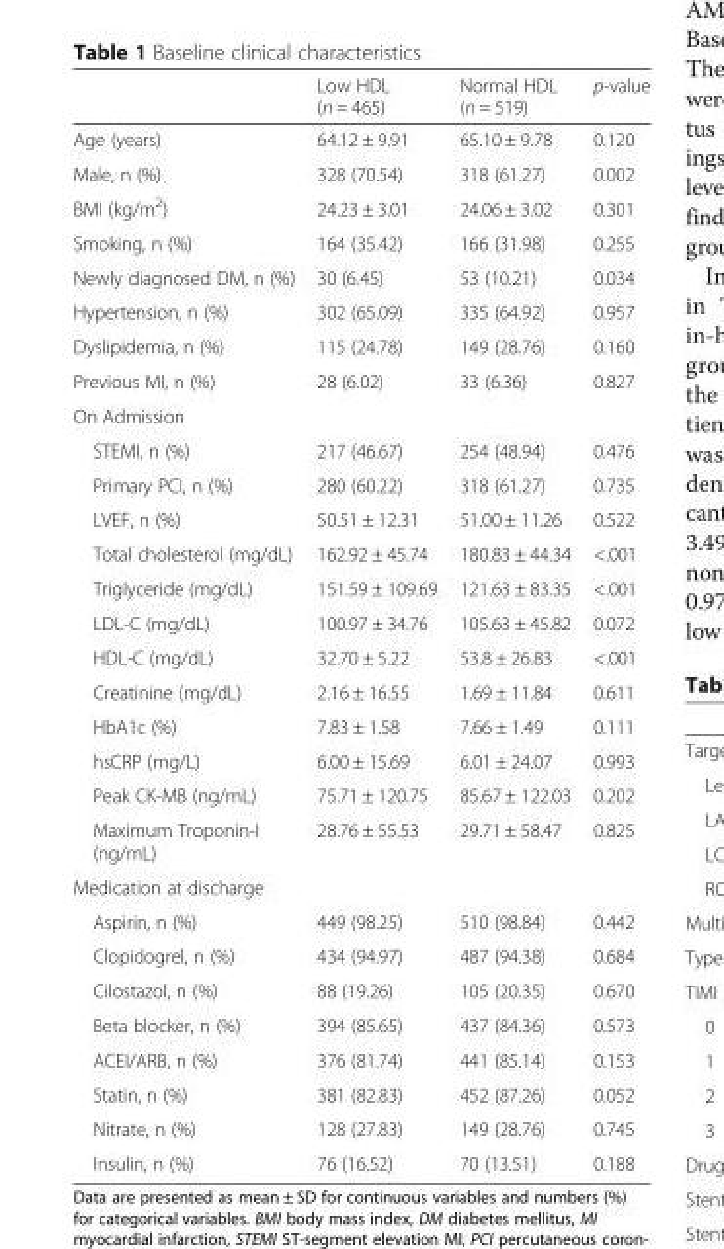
<table><thead><tr><td></td><td>Low HDL (n = 465)</td><td>Normal HDL (n = 519)</td><td>p-value</td></tr></thead><tbody><tr><td>Age (years)</td><td>64.12 ± 9.91</td><td>65.10 ± 9.78</td><td>0.120</td></tr><tr><td>Male, n (%)</td><td>328 (70.54)</td><td>318 (61.27)</td><td>0.002</td></tr><tr><td>BMI (kg/m<sup>2</sup>)</td><td>24.23 ± 3.01</td><td>24.06 ± 3.02</td><td>0.301</td></tr><tr><td>Smoking, n (%)</td><td>164 (35.42)</td><td>166 (31.98)</td><td>0.255</td></tr><tr><td>Newly diagnosed DM, n (%)</td><td>30 (6.45)</td><td>53 (10.21)</td><td>0.034</td></tr><tr><td>Hypertension, n (%)</td><td>302 (65.09)</td><td>335 (64.92)</td><td>0.957</td></tr><tr><td>Dyslipidemia, n (%)</td><td>115 (24.78)</td><td>149 (28.76)</td><td>0.160</td></tr><tr><td>Previous MI, n (%)</td><td>28 (6.02)</td><td>33 (6.36)</td><td>0.827</td></tr><tr><td colspan="4">On Admission</td></tr><tr><td>STEMI, n (%)</td><td>217 (46.67)</td><td>254 (48.94)</td><td>0.476</td></tr><tr><td>Primary PCI, n (%)</td><td>280 (60.22)</td><td>318 (61.27)</td><td>0.735</td></tr><tr><td>LVEF, n (%)</td><td>50.51 ± 12.31</td><td>51.00 ± 11.26</td><td>0.522</td></tr><tr><td>Total cholesterol (mg/dL)</td><td>162.92 ± 45.74</td><td>180.83 ± 44.34</td><td>&lt;.001</td></tr><tr><td>Triglyceride (mg/dL)</td><td>151.59 ± 109.69</td><td>121.63 ± 83.35</td><td>&lt;.001</td></tr><tr><td>LDL-C (mg/dL)</td><td>100.97 ± 34.76</td><td>105.63 ± 45.82</td><td>0.072</td></tr><tr><td>HDL-C (mg/dL)</td><td>32.70 ± 5.22</td><td>53.8 ± 26.83</td><td>&lt;.001</td></tr><tr><td>Creatinine (mg/dL)</td><td>2.16 ± 16.55</td><td>1.69 ± 11.84</td><td>0.611</td></tr><tr><td>HbA1c (%)</td><td>7.83 ± 1.58</td><td>7.66 ± 1.49</td><td>0.111</td></tr><tr><td>hsCRP (mg/L)</td><td>6.00 ± 15.69</td><td>6.01 ± 24.07</td><td>0.993</td></tr><tr><td>Peak CK-MB (ng/mL)</td><td>75.71 ± 120.75</td><td>85.67 ± 122.03</td><td>0.202</td></tr><tr><td>Maximum Troponin-I (ng/mL)</td><td>28.76 ± 55.53</td><td>29.71 ± 58.47</td><td>0.825</td></tr><tr><td colspan="4">Medication at discharge</td></tr><tr><td>Aspirin, n (%)</td><td>449 (98.25)</td><td>510 (98.84)</td><td>0.442</td></tr><tr><td>Clopidogrel, n (%)</td><td>434 (94.97)</td><td>487 (94.38)</td><td>0.684</td></tr><tr><td>Cilostazol, n (%)</td><td>88 (19.26)</td><td>105 (20.35)</td><td>0.670</td></tr><tr><td>Beta blocker, n (%)</td><td>394 (85.65)</td><td>437 (84.36)</td><td>0.573</td></tr><tr><td>ACEI/ARB, n (%)</td><td>376 (81.74)</td><td>441 (85.14)</td><td>0.153</td></tr><tr><td>Statin, n (%)</td><td>381 (82.83)</td><td>452 (87.26)</td><td>0.052</td></tr><tr><td>Nitrate, n (%)</td><td>128 (27.83)</td><td>149 (28.76)</td><td>0.745</td></tr><tr><td>Insulin, n (%)</td><td>76 (16.52)</td><td>70 (13.51)</td><td>0.188</td></tr></tbody></table>